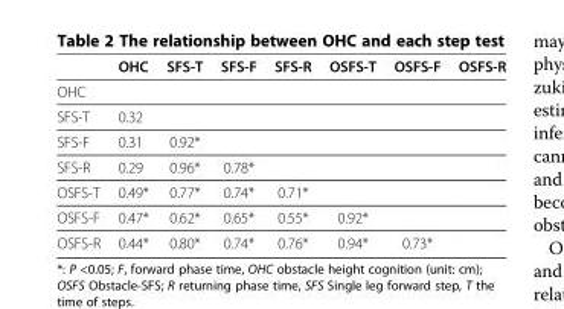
<table><thead><tr><td></td><td>OHC</td><td>SFS-T</td><td>SFS-F</td><td>SFS-R</td><td>OSFS-T</td><td>OSFS-F</td><td>OSFS-R</td></tr></thead><tbody><tr><td colspan="8">OHC</td></tr><tr><td>SFS-T</td><td>0.32</td><td></td><td></td><td></td><td></td><td></td><td></td></tr><tr><td>SFS-F</td><td>0.31</td><td>0.92*</td><td></td><td></td><td></td><td></td><td></td></tr><tr><td>SFS-R</td><td>0.29</td><td>0.96*</td><td>0.78*</td><td></td><td></td><td></td><td></td></tr><tr><td>OSFS-T</td><td>0.49*</td><td>0.77*</td><td>0.74*</td><td>0.71*</td><td></td><td></td><td></td></tr><tr><td>OSFS-F</td><td>0.47*</td><td>0.62*</td><td>0.65*</td><td>0.55*</td><td>0.92*</td><td></td><td></td></tr><tr><td>OSFS-R</td><td>0.44*</td><td>0.80*</td><td>0.74*</td><td>0.76*</td><td>0.94*</td><td>0.73*</td><td></td></tr></tbody></table>